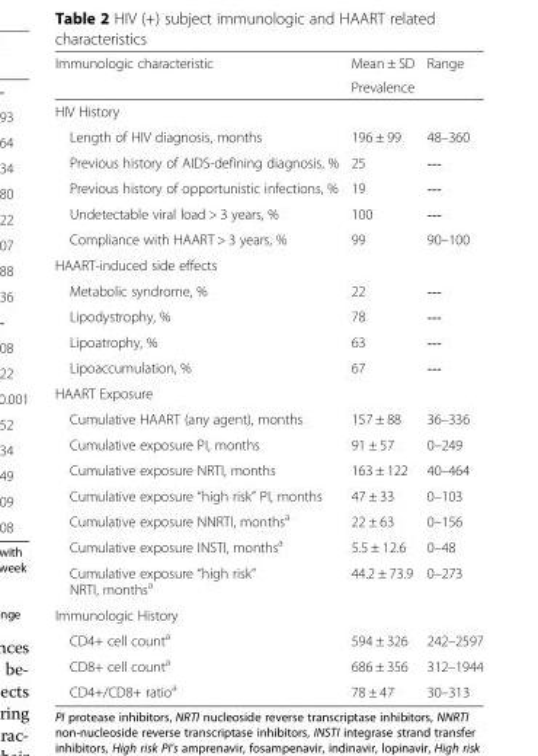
<table><thead><tr><td rowspan="2">Immunologic characteristic</td><td rowspan="2">Mean ± SD Prevalence</td><td rowspan="2">Range</td></tr><tr></tr></thead><tbody><tr><td colspan="3">HIV History</td></tr><tr><td>Length of HIV diagnosis, months</td><td>196 ± 99</td><td>48–360</td></tr><tr><td>Previous history of AIDS-defining diagnosis, %</td><td>25</td><td>---</td></tr><tr><td>Previous history of opportunistic infections, %</td><td>19</td><td>---</td></tr><tr><td>Undetectable viral load &gt; 3 years, %</td><td>100</td><td>---</td></tr><tr><td>Compliance with HAART &gt; 3 years, %</td><td>99</td><td>90–100</td></tr><tr><td colspan="3">HAART-induced side effects</td></tr><tr><td>Metabolic syndrome, %</td><td>22</td><td>---</td></tr><tr><td>Lipodystrophy, %</td><td>78</td><td>---</td></tr><tr><td>Lipoatrophy, %</td><td>63</td><td>---</td></tr><tr><td>Lipoaccumulation, %</td><td>67</td><td>---</td></tr><tr><td colspan="3">HAART Exposure</td></tr><tr><td>Cumulative HAART (any agent), months</td><td>157 ± 88</td><td>36–336</td></tr><tr><td>Cumulative exposure PI, months</td><td>91 ± 57</td><td>0–249</td></tr><tr><td>Cumulative exposure NRTI, months</td><td>163 ± 122</td><td>40–464</td></tr><tr><td>Cumulative exposure “high risk” PI, months</td><td>47 ± 33</td><td>0–103</td></tr><tr><td>Cumulative exposure NNRTI, months<sup>a</sup></td><td>22 ± 63</td><td>0–156</td></tr><tr><td>Cumulative exposure INSTI, months<sup>a</sup></td><td>5.5 ± 12.6</td><td>0–48</td></tr><tr><td>Cumulative exposure “high risk” NRTI, months<sup>a</sup></td><td>44.2 ± 73.9</td><td>0–273</td></tr><tr><td colspan="3">Immunologic History</td></tr><tr><td>CD4+ cell count<sup>a</sup></td><td>594 ± 326</td><td>242–2597</td></tr><tr><td>CD8+ cell count<sup>a</sup></td><td>686 ± 356</td><td>312–1944</td></tr><tr><td>CD4+/CD8+ ratio<sup>a</sup></td><td>78 ± 47</td><td>30–313</td></tr></tbody></table>